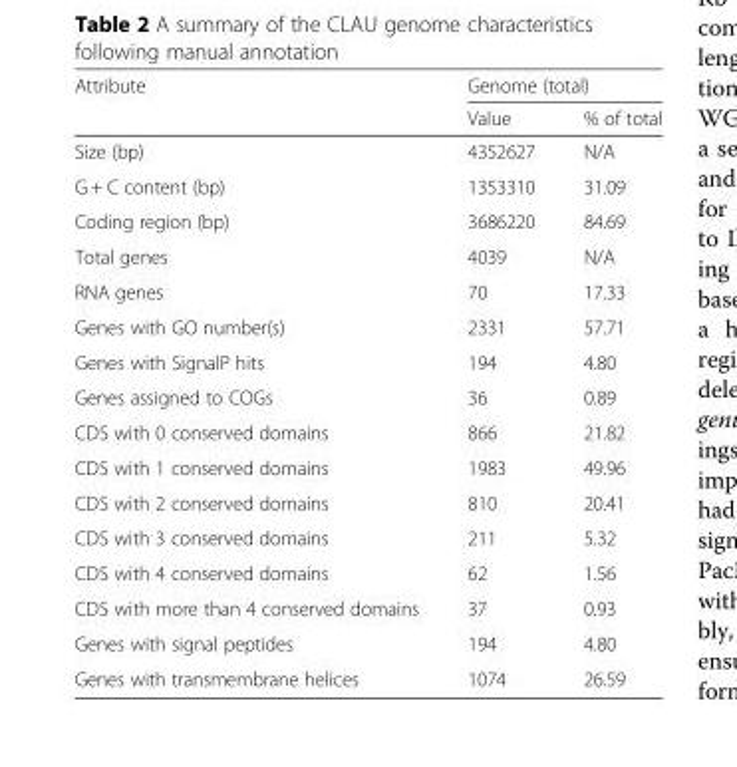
<table><thead><tr><td rowspan="2">Attribute</td><td colspan="2">Genome (total)</td></tr><tr><td>Value</td><td>% of total</td></tr></thead><tbody><tr><td>Size (bp)</td><td>4352627</td><td>N/A</td></tr><tr><td>G + C content (bp)</td><td>1353310</td><td>31.09</td></tr><tr><td>Coding region (bp)</td><td>3686220</td><td>84.69</td></tr><tr><td>Total genes</td><td>4039</td><td>N/A</td></tr><tr><td>RNA genes</td><td>70</td><td>17.33</td></tr><tr><td>Genes with GO number(s)</td><td>2331</td><td>57.71</td></tr><tr><td>Genes with SignalP hits</td><td>194</td><td>4.80</td></tr><tr><td>Genes assigned to COGs</td><td>36</td><td>0.89</td></tr><tr><td>CDS with 0 conserved domains</td><td>866</td><td>21.82</td></tr><tr><td>CDS with 1 conserved domains</td><td>1983</td><td>49.96</td></tr><tr><td>CDS with 2 conserved domains</td><td>810</td><td>20.41</td></tr><tr><td>CDS with 3 conserved domains</td><td>211</td><td>5.32</td></tr><tr><td>CDS with 4 conserved domains</td><td>62</td><td>1.56</td></tr><tr><td>CDS with more than 4 conserved domains</td><td>37</td><td>0.93</td></tr><tr><td>Genes with signal peptides</td><td>194</td><td>4.80</td></tr><tr><td>Genes with transmembrane helices</td><td>1074</td><td>26.59</td></tr></tbody></table>